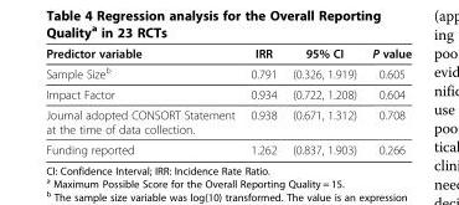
<table><thead><tr><td>Predictor variable</td><td>IRR</td><td>95% CI</td><td>P value</td></tr></thead><tbody><tr><td>Sample Size<sup>b</sup></td><td>0.791</td><td>(0.326, 1.919)</td><td>0.605</td></tr><tr><td>Impact Factor</td><td>0.934</td><td>(0.722, 1.208)</td><td>0.604</td></tr><tr><td>Journal adopted CONSORT Statement at the time of data collection.</td><td>0.938</td><td>(0.671, 1.312)</td><td>0.708</td></tr><tr><td>Funding reported</td><td>1.262</td><td>(0.837, 1.903)</td><td>0.266</td></tr></tbody></table>